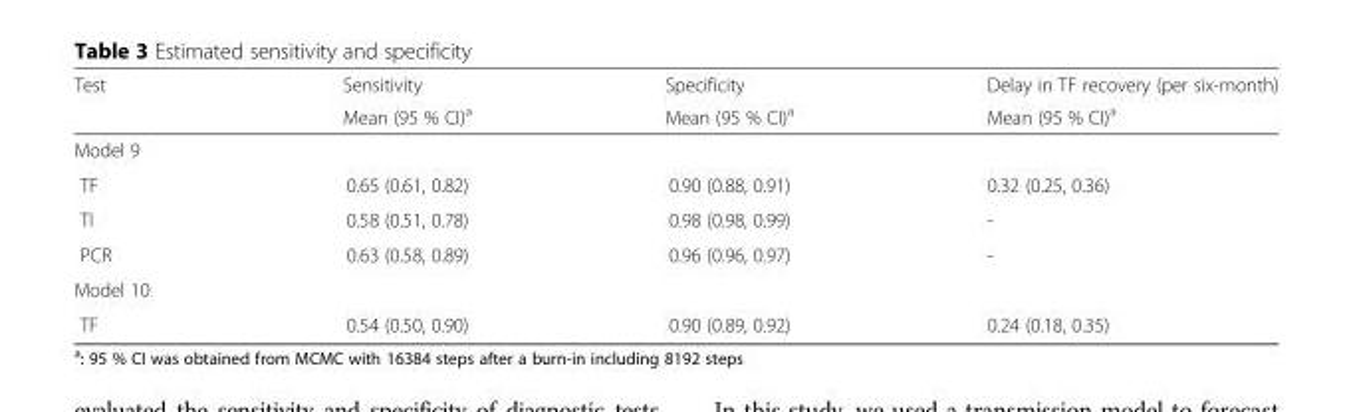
<table><thead><tr><td rowspan="2">Test</td><td rowspan="2">Sensitivity Mean (95 % CI)<sup>a</sup></td><td rowspan="2">Specificity Mean (95 % CI)<sup>a</sup></td><td rowspan="2">Delay in TF recovery (per six-month) Mean (95 % CI)<sup>a</sup></td></tr><tr></tr></thead><tbody><tr><td colspan="4">Model 9</td></tr><tr><td>TF</td><td>0.65 (0.61, 0.82)</td><td>0.90 (0.88, 0.91)</td><td>0.32 (0.25, 0.36)</td></tr><tr><td>TI</td><td>0.58 (0.51, 0.78)</td><td>0.98 (0.98, 0.99)</td><td>-</td></tr><tr><td>PCR</td><td>0.63 (0.58, 0.89)</td><td>0.96 (0.96, 0.97)</td><td>-</td></tr><tr><td colspan="4">Model 10</td></tr><tr><td>TF</td><td>0.54 (0.50, 0.90)</td><td>0.90 (0.89, 0.92)</td><td>0.24 (0.18, 0.35)</td></tr></tbody></table>